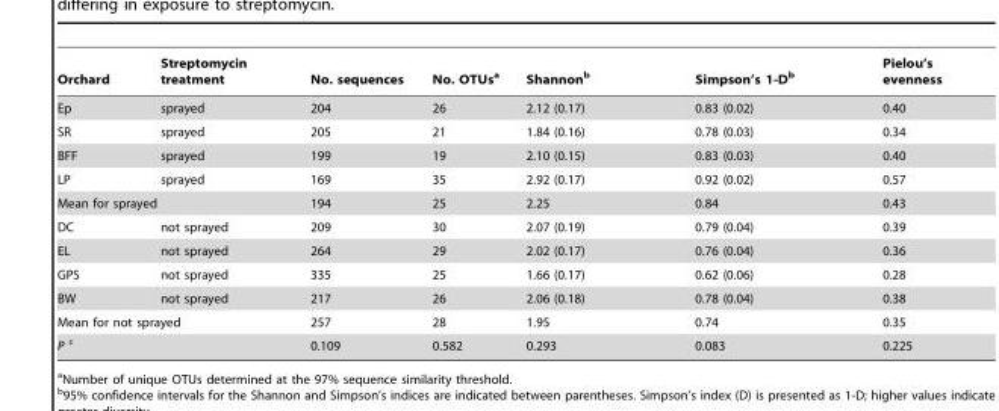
<table><thead><tr><td>Orchard</td><td>Streptomycin treatment</td><td>No. sequences</td><td>No. OTUs<sup>a</sup></td><td>Shannon<sup>b</sup></td><td>Simpson’s 1-D<sup>b</sup></td><td>Pielou’s evenness</td></tr></thead><tbody><tr><td>Ep</td><td>sprayed</td><td>204</td><td>26</td><td>2.12 (0.17)</td><td>0.83 (0.02)</td><td>0.40</td></tr><tr><td>SR</td><td>sprayed</td><td>205</td><td>21</td><td>1.84 (0.16)</td><td>0.78 (0.03)</td><td>0.34</td></tr><tr><td>BFF</td><td>sprayed</td><td>199</td><td>19</td><td>2.10 (0.15)</td><td>0.83 (0.03)</td><td>0.40</td></tr><tr><td>LP</td><td>sprayed</td><td>169</td><td>35</td><td>2.92 (0.17)</td><td>0.92 (0.02)</td><td>0.57</td></tr><tr><td colspan="2">Mean for sprayed</td><td>194</td><td>25</td><td>2.25</td><td>0.84</td><td>0.43</td></tr><tr><td>DC</td><td>not sprayed</td><td>209</td><td>30</td><td>2.07 (0.19)</td><td>0.79 (0.04)</td><td>0.39</td></tr><tr><td>EL</td><td>not sprayed</td><td>264</td><td>29</td><td>2.02 (0.17)</td><td>0.76 (0.04)</td><td>0.36</td></tr><tr><td>GPS</td><td>not sprayed</td><td>335</td><td>25</td><td>1.66 (0.17)</td><td>0.62 (0.06)</td><td>0.28</td></tr><tr><td>BW</td><td>not sprayed</td><td>217</td><td>26</td><td>2.06 (0.18)</td><td>0.78 (0.04)</td><td>0.38</td></tr><tr><td colspan="2">Mean for not sprayed</td><td>257</td><td>28</td><td>1.95</td><td>0.74</td><td>0.35</td></tr><tr><td colspan="2">P c</td><td>0.109</td><td>0.582</td><td>0.293</td><td>0.083</td><td>0.225</td></tr></tbody></table>